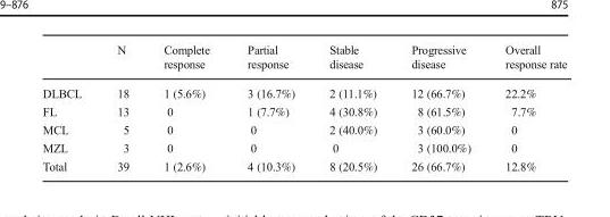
<table><thead><tr><td></td><td>N</td><td>Complete response</td><td>Partial response</td><td>Stable disease</td><td>Progressive disease</td><td>Overall response rate</td></tr></thead><tbody><tr><td>DLBCL</td><td>18</td><td>1 (5.6%)</td><td>3 (16.7%)</td><td>2 (11.1%)</td><td>12 (66.7%)</td><td>22.2%</td></tr><tr><td>FL</td><td>13</td><td>0</td><td>1 (7.7%)</td><td>4 (30.8%)</td><td>8 (61.5%)</td><td>7.7%</td></tr><tr><td>MCL</td><td>5</td><td>0</td><td>0</td><td>2 (40.0%)</td><td>3 (60.0%)</td><td>0</td></tr><tr><td>MZL</td><td>3</td><td>0</td><td>0</td><td>0</td><td>3 (100.0%)</td><td>0</td></tr><tr><td>Total</td><td>39</td><td>1 (2.6%)</td><td>4 (10.3%)</td><td>8 (20.5%)</td><td>26 (66.7%)</td><td>12.8%</td></tr></tbody></table>